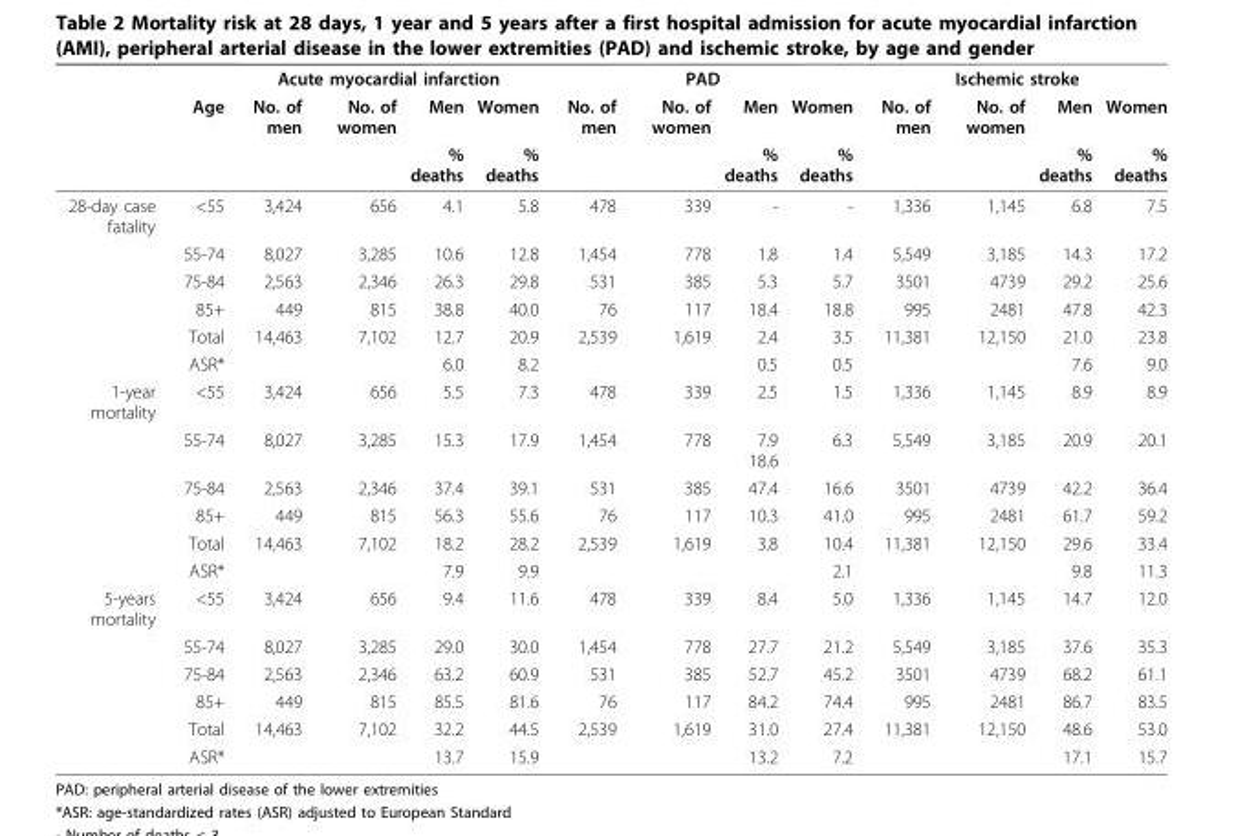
<table><thead><tr><td rowspan="3"></td><td rowspan="3">Age</td><td colspan="4">Acute myocardial infarction</td><td colspan="4">PAD</td><td colspan="4">Ischemic stroke</td></tr><tr><td rowspan="2">No. of men</td><td rowspan="2">No. of women</td><td rowspan="2">Men % deaths</td><td rowspan="2">Women % deaths</td><td rowspan="2">No. of men</td><td rowspan="2">No. of women</td><td rowspan="2">Men % deaths</td><td rowspan="2">Women % deaths</td><td rowspan="2">No. of men</td><td rowspan="2">No. of women</td><td rowspan="2">Men % deaths</td><td rowspan="2">Women % deaths</td></tr><tr></tr></thead><tbody><tr><td rowspan="6">28-day case fatality</td><td>&lt;55</td><td>3,424</td><td>656</td><td>4.1</td><td>5.8</td><td>478</td><td>339</td><td>-</td><td>-</td><td>1,336</td><td>1,145</td><td>6.8</td><td>7.5</td></tr><tr><td>55-74</td><td>8,027</td><td>3,285</td><td>10.6</td><td>12.8</td><td>1,454</td><td>778</td><td>1.8</td><td>1.4</td><td>5,549</td><td>3,185</td><td>14.3</td><td>17.2</td></tr><tr><td>75-84</td><td>2,563</td><td>2,346</td><td>26.3</td><td>29.8</td><td>531</td><td>385</td><td>5.3</td><td>5.7</td><td>3501</td><td>4739</td><td>29.2</td><td>25.6</td></tr><tr><td>85+</td><td>449</td><td>815</td><td>38.8</td><td>40.0</td><td>76</td><td>117</td><td>18.4</td><td>18.8</td><td>995</td><td>2481</td><td>47.8</td><td>42.3</td></tr><tr><td>Total</td><td>14,463</td><td>7,102</td><td>12.7</td><td>20.9</td><td>2,539</td><td>1,619</td><td>2.4</td><td>3.5</td><td>11,381</td><td>12,150</td><td>21.0</td><td>23.8</td></tr><tr><td>ASR*</td><td></td><td></td><td>6.0</td><td>8.2</td><td></td><td></td><td>0.5</td><td>0.5</td><td></td><td></td><td>7.6</td><td>9.0</td></tr><tr><td rowspan="6">1-year mortality</td><td>&lt;55</td><td>3,424</td><td>656</td><td>5.5</td><td>7.3</td><td>478</td><td>339</td><td>2.5</td><td>1.5</td><td>1,336</td><td>1,145</td><td>8.9</td><td>8.9</td></tr><tr><td>55-74</td><td>8,027</td><td>3,285</td><td>15.3</td><td>17.9</td><td>1,454</td><td>778</td><td>7.9 18.6</td><td>6.3</td><td>5,549</td><td>3,185</td><td>20.9</td><td>20.1</td></tr><tr><td>75-84</td><td>2,563</td><td>2,346</td><td>37.4</td><td>39.1</td><td>531</td><td>385</td><td>47.4</td><td>16.6</td><td>3501</td><td>4739</td><td>42.2</td><td>36.4</td></tr><tr><td>85+</td><td>449</td><td>815</td><td>56.3</td><td>55.6</td><td>76</td><td>117</td><td>10.3</td><td>41.0</td><td>995</td><td>2481</td><td>61.7</td><td>59.2</td></tr><tr><td>Total</td><td>14,463</td><td>7,102</td><td>18.2</td><td>28.2</td><td>2,539</td><td>1,619</td><td>3.8</td><td>10.4</td><td>11,381</td><td>12,150</td><td>29.6</td><td>33.4</td></tr><tr><td>ASR*</td><td></td><td></td><td>7.9</td><td>9.9</td><td></td><td></td><td></td><td>2.1</td><td></td><td></td><td>9.8</td><td>11.3</td></tr><tr><td rowspan="6">5-years mortality</td><td>&lt;55</td><td>3,424</td><td>656</td><td>9.4</td><td>11.6</td><td>478</td><td>339</td><td>8.4</td><td>5.0</td><td>1,336</td><td>1,145</td><td>14.7</td><td>12.0</td></tr><tr><td>55-74</td><td>8,027</td><td>3,285</td><td>29.0</td><td>30.0</td><td>1,454</td><td>778</td><td>27.7</td><td>21.2</td><td>5,549</td><td>3,185</td><td>37.6</td><td>35.3</td></tr><tr><td>75-84</td><td>2,563</td><td>2,346</td><td>63.2</td><td>60.9</td><td>531</td><td>385</td><td>52.7</td><td>45.2</td><td>3501</td><td>4739</td><td>68.2</td><td>61.1</td></tr><tr><td>85+</td><td>449</td><td>815</td><td>85.5</td><td>81.6</td><td>76</td><td>117</td><td>84.2</td><td>74.4</td><td>995</td><td>2481</td><td>86.7</td><td>83.5</td></tr><tr><td>Total</td><td>14,463</td><td>7,102</td><td>32.2</td><td>44.5</td><td>2,539</td><td>1,619</td><td>31.0</td><td>27.4</td><td>11,381</td><td>12,150</td><td>48.6</td><td>53.0</td></tr><tr><td>ASR*</td><td></td><td></td><td>13.7</td><td>15.9</td><td></td><td></td><td>13.2</td><td>7.2</td><td></td><td></td><td>17.1</td><td>15.7</td></tr></tbody></table>